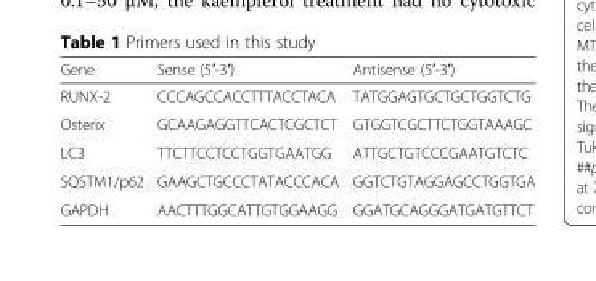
<table><thead><tr><td>Gene</td><td>Sense (5′-3′)</td><td>Antisense (5′-3′)</td></tr></thead><tbody><tr><td>RUNX-2</td><td>CCCAGCCACCTTTACCTACA</td><td>TATGGAGTGCTGCTGGTCTG</td></tr><tr><td>Osterix</td><td>GCAAGAGGTTCACTCGCTCT</td><td>GTGGTCGCTTCTGGTAAAGC</td></tr><tr><td>LC3</td><td>TTCTTCCTCCTGGTGAATGG</td><td>ATTGCTGTCCCGAATGTCTC</td></tr><tr><td>SQSTM1/p62</td><td>GAAGCTGCCCTATACCCACA</td><td>GGTCTGTAGGAGCCTGGTGA</td></tr><tr><td>GAPDH</td><td>AACTTTGGCATTGTGGAAGG</td><td>GGATGCAGGGATGATGTTCT</td></tr></tbody></table>